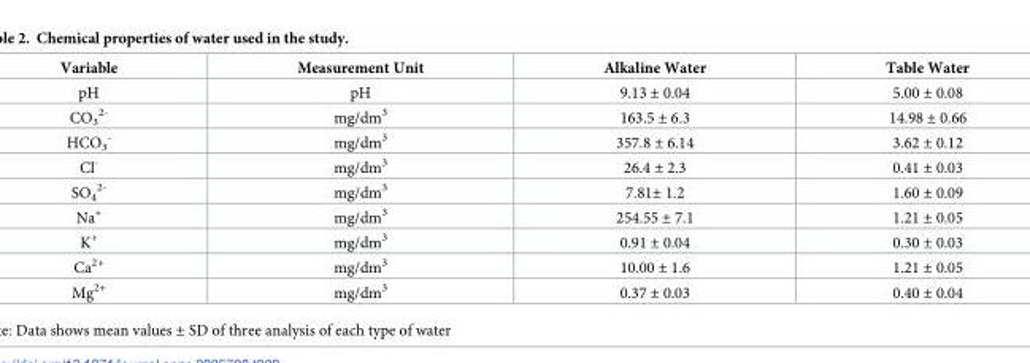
<table><thead><tr><td>Variable</td><td>Measurement Unit</td><td>Alkaline Water</td><td>Table Water</td></tr></thead><tbody><tr><td>pH</td><td>pH</td><td>9.13 ± 0.04</td><td>5.00 ± 0.08</td></tr><tr><td>CO<sub>3</sub> <sup>2-</sup></td><td>mg/dm<sup>3</sup></td><td>163.5 ± 6.3</td><td>14.98 ± 0.66</td></tr><tr><td>HCO<sub>3</sub> <sup>-</sup></td><td>mg/dm<sup>3</sup></td><td>357.8 ± 6.14</td><td>3.62 ± 0.12</td></tr><tr><td>Cl<sup>-</sup></td><td>mg/dm<sup>3</sup></td><td>26.4 ± 2.3</td><td>0.41 ± 0.03</td></tr><tr><td>SO<sub>4</sub> <sup>2-</sup></td><td>mg/dm<sup>3</sup></td><td>7.81± 1.2</td><td>1.60 ± 0.09</td></tr><tr><td>Na<sup>+</sup></td><td>mg/dm<sup>3</sup></td><td>254.55 ± 7.1</td><td>1.21 ± 0.05</td></tr><tr><td>K<sup>+</sup></td><td>mg/dm<sup>3</sup></td><td>0.91 ± 0.04</td><td>0.30 ± 0.03</td></tr><tr><td>Ca<sup>2+</sup></td><td>mg/dm<sup>3</sup></td><td>10.00 ± 1.6</td><td>1.21 ± 0.05</td></tr><tr><td>Mg<sup>2+</sup></td><td>mg/dm<sup>3</sup></td><td>0.37 ± 0.03</td><td>0.40 ± 0.04</td></tr></tbody></table>